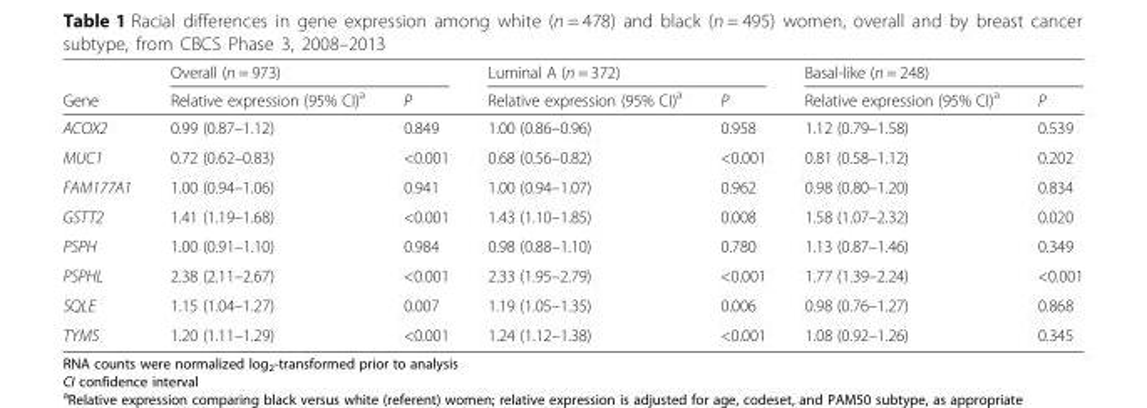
<table><thead><tr><td rowspan="2">Gene</td><td colspan="2">Overall (n = 973)</td><td colspan="2">Luminal A (n = 372)</td><td colspan="2">Basal-like (n = 248)</td></tr><tr><td>Relative expression (95% CI)<sup>a</sup></td><td>P</td><td>Relative expression (95% CI)<sup>a</sup></td><td>P</td><td>Relative expression (95% CI)<sup>a</sup></td><td>P</td></tr></thead><tbody><tr><td>ACOX2</td><td>0.99 (0.87–1.12)</td><td>0.849</td><td>1.00 (0.86–0.96)</td><td>0.958</td><td>1.12 (0.79–1.58)</td><td>0.539</td></tr><tr><td>MUC1</td><td>0.72 (0.62–0.83)</td><td>&lt;0.001</td><td>0.68 (0.56–0.82)</td><td>&lt;0.001</td><td>0.81 (0.58–1.12)</td><td>0.202</td></tr><tr><td>FAM177A1</td><td>1.00 (0.94–1.06)</td><td>0.941</td><td>1.00 (0.94–1.07)</td><td>0.962</td><td>0.98 (0.80–1.20)</td><td>0.834</td></tr><tr><td>GSTT2</td><td>1.41 (1.19–1.68)</td><td>&lt;0.001</td><td>1.43 (1.10–1.85)</td><td>0.008</td><td>1.58 (1.07–2.32)</td><td>0.020</td></tr><tr><td>PSPH</td><td>1.00 (0.91–1.10)</td><td>0.984</td><td>0.98 (0.88–1.10)</td><td>0.780</td><td>1.13 (0.87–1.46)</td><td>0.349</td></tr><tr><td>PSPHL</td><td>2.38 (2.11–2.67)</td><td>&lt;0.001</td><td>2.33 (1.95–2.79)</td><td>&lt;0.001</td><td>1.77 (1.39–2.24)</td><td>&lt;0.001</td></tr><tr><td>SQLE</td><td>1.15 (1.04–1.27)</td><td>0.007</td><td>1.19 (1.05–1.35)</td><td>0.006</td><td>0.98 (0.76–1.27)</td><td>0.868</td></tr><tr><td>TYMS</td><td>1.20 (1.11–1.29)</td><td>&lt;0.001</td><td>1.24 (1.12–1.38)</td><td>&lt;0.001</td><td>1.08 (0.92–1.26)</td><td>0.345</td></tr></tbody></table>